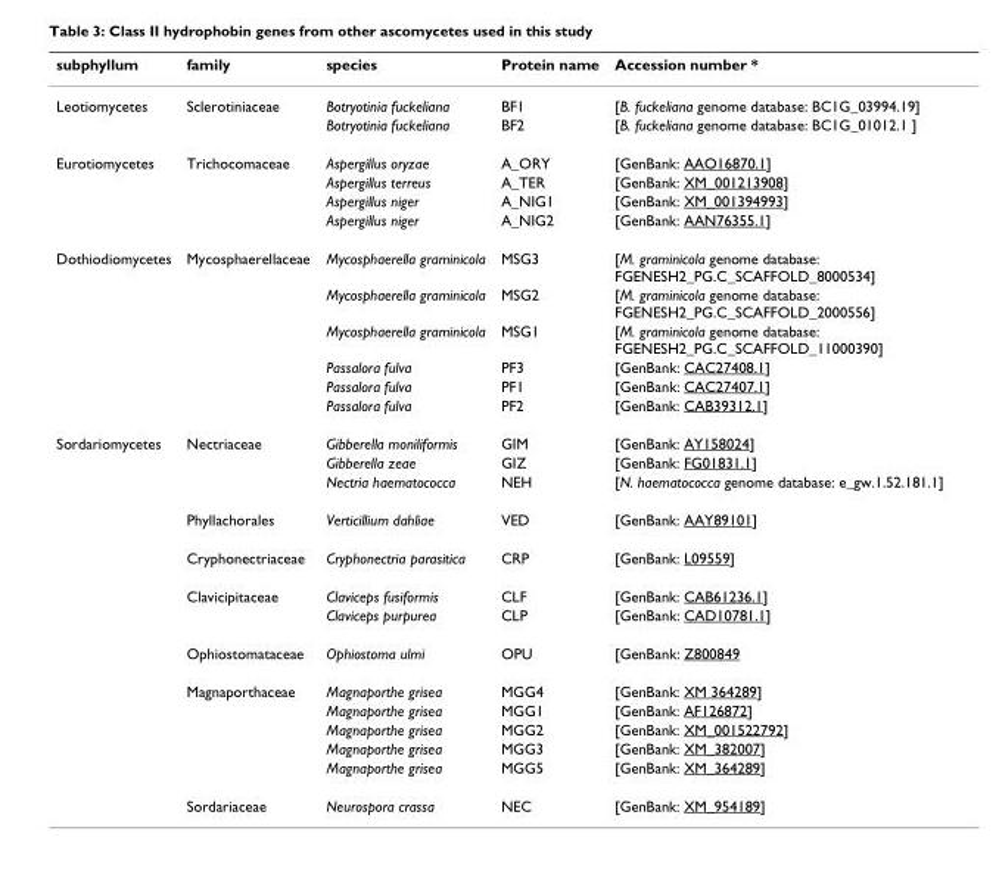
<table><thead><tr><td>subphyllum</td><td>family</td><td>species</td><td>Protein name</td><td>Accession number *</td></tr></thead><tbody><tr><td rowspan="2">Leotiomycetes</td><td>Sclerotiniaceae</td><td>Botryotinia fuckeliana</td><td>BF1</td><td>[B. fuckeliana genome database: BC1G_03994.19]</td></tr><tr><td></td><td>Botryotinia fuckeliana</td><td>BF2</td><td>[B. fuckeliana genome database: BC1G_01012.1 ]</td></tr><tr><td rowspan="4">Eurotiomycetes</td><td>Trichocomaceae</td><td>Aspergillus oryzae</td><td>A_ORY</td><td>[GenBank: AAO16870.1]</td></tr><tr><td></td><td>Aspergillus terreus</td><td>A_TER</td><td>[GenBank: XM_001213908]</td></tr><tr><td></td><td>Aspergillus niger</td><td>A_NIG1</td><td>[GenBank: XM_001394993]</td></tr><tr><td></td><td>Aspergillus niger</td><td>A_NIG2</td><td>[GenBank: AAN76355.1]</td></tr><tr><td rowspan="6">Dothiodiomycetes</td><td>Mycosphaerellaceae</td><td>Mycosphaerella graminicola</td><td>MSG3</td><td>[M. graminicola genome database: FGENESH2_PG.C_SCAFFOLD_8000534]</td></tr><tr><td></td><td>Mycosphaerella graminicola</td><td>MSG2</td><td>[M. graminicola genome database: FGENESH2_PG.C_SCAFFOLD_2000556]</td></tr><tr><td></td><td>Mycosphaerella graminicola</td><td>MSG1</td><td>[M. graminicola genome database: FGENESH2_PG.C_SCAFFOLD_11000390]</td></tr><tr><td></td><td>Passalora fulva</td><td>PF3</td><td>[GenBank: CAC27408.1]</td></tr><tr><td></td><td>Passalora fulva</td><td>PF1</td><td>[GenBank: CAC27407.1]</td></tr><tr><td></td><td>Passalora fulva</td><td>PF2</td><td>[GenBank: CAB39312.1]</td></tr><tr><td rowspan="14">Sordariomycetes</td><td>Nectriaceae</td><td>Gibberella moniliformis</td><td>GIM</td><td>[GenBank: AY158024]</td></tr><tr><td></td><td>Gibberella zeae</td><td>GIZ</td><td>[GenBank: FG01831.1]</td></tr><tr><td></td><td>Nectria haematococca</td><td>NEH</td><td>[N. haematococca genome database: e_gw.1.52.181.1]</td></tr><tr><td>Phyllachorales</td><td>Verticillium dahliae</td><td>VED</td><td>[GenBank: AAY89101]</td></tr><tr><td>Cryphonectriaceae</td><td>Cryphonectria parasitica</td><td>CRP</td><td>[GenBank: L09559]</td></tr><tr><td>Clavicipitaceae</td><td>Claviceps fusiformis</td><td>CLF</td><td>[GenBank: CAB61236.1]</td></tr><tr><td></td><td>Claviceps purpurea</td><td>CLP</td><td>[GenBank: CAD10781.1]</td></tr><tr><td>Ophiostomataceae</td><td>Ophiostoma ulmi</td><td>OPU</td><td>[GenBank: Z800849</td></tr><tr><td>Magnaporthaceae</td><td>Magnaporthe grisea</td><td>MGG4</td><td>[GenBank: XM 364289]</td></tr><tr><td></td><td>Magnaporthe grisea</td><td>MGG1</td><td>[GenBank: AF126872]</td></tr><tr><td></td><td>Magnaporthe grisea</td><td>MGG2</td><td>[GenBank: XM_001522792]</td></tr><tr><td></td><td>Magnaporthe grisea</td><td>MGG3</td><td>[GenBank: XM_382007]</td></tr><tr><td></td><td>Magnaporthe grisea</td><td>MGG5</td><td>[GenBank: XM_364289]</td></tr><tr><td>Sordariaceae</td><td>Neurospora crassa</td><td>NEC</td><td>[GenBank: XM_954189]</td></tr></tbody></table>